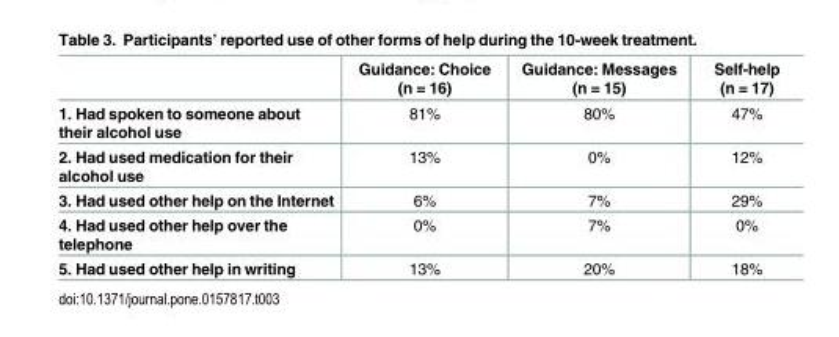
<table><thead><tr><td></td><td>Guidance: Choice (n = 16)</td><td>Guidance: Messages (n = 15)</td><td>Self-help (n = 17)</td></tr></thead><tbody><tr><td>1. Had spoken to someone about their alcohol use</td><td>81%</td><td>80%</td><td>47%</td></tr><tr><td>2. Had used medication for their alcohol use</td><td>13%</td><td>0%</td><td>12%</td></tr><tr><td>3. Had used other help on the Internet</td><td>6%</td><td>7%</td><td>29%</td></tr><tr><td>4. Had used other help over the telephone</td><td>0%</td><td>7%</td><td>0%</td></tr><tr><td>5. Had used other help in writing</td><td>13%</td><td>20%</td><td>18%</td></tr></tbody></table>